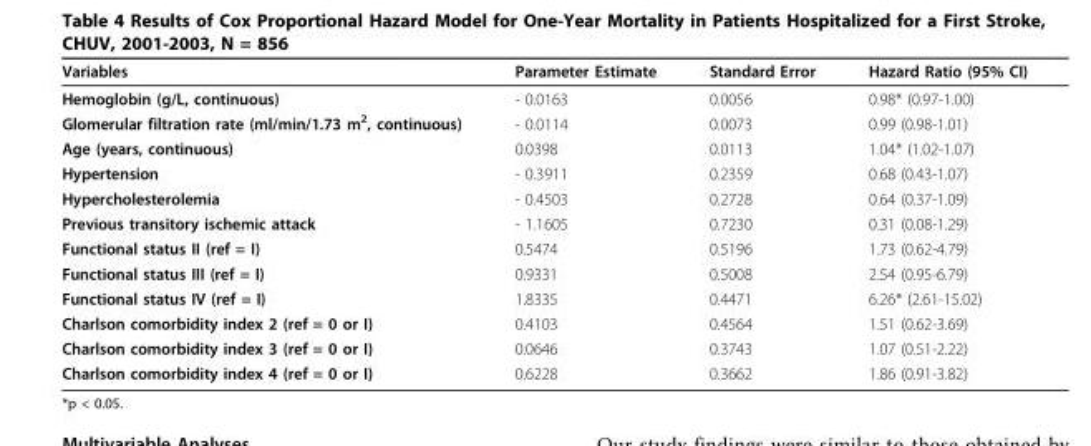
<table><thead><tr><td>Variables</td><td>Parameter Estimate</td><td>Standard Error</td><td>Hazard Ratio (95% CI)</td></tr></thead><tbody><tr><td>Hemoglobin (g/L, continuous)</td><td>- 0.0163</td><td>0.0056</td><td>0.98* (0.97-1.00)</td></tr><tr><td>Glomerular filtration rate (ml/min/1.73 m<sup>2</sup>, continuous)</td><td>- 0.0114</td><td>0.0073</td><td>0.99 (0.98-1.01)</td></tr><tr><td>Age (years, continuous)</td><td>0.0398</td><td>0.0113</td><td>1.04* (1.02-1.07)</td></tr><tr><td>Hypertension</td><td>- 0.3911</td><td>0.2359</td><td>0.68 (0.43-1.07)</td></tr><tr><td>Hypercholesterolemia</td><td>- 0.4503</td><td>0.2728</td><td>0.64 (0.37-1.09)</td></tr><tr><td>Previous transitory ischemic attack</td><td>- 1.1605</td><td>0.7230</td><td>0.31 (0.08-1.29)</td></tr><tr><td>Functional status II (ref = I)</td><td>0.5474</td><td>0.5196</td><td>1.73 (0.62-4.79)</td></tr><tr><td>Functional status III (ref = I)</td><td>0.9331</td><td>0.5008</td><td>2.54 (0.95-6.79)</td></tr><tr><td>Functional status IV (ref = I)</td><td>1.8335</td><td>0.4471</td><td>6.26* (2.61-15.02)</td></tr><tr><td>Charlson comorbidity index 2 (ref = 0 or I)</td><td>0.4103</td><td>0.4564</td><td>1.51 (0.62-3.69)</td></tr><tr><td>Charlson comorbidity index 3 (ref = 0 or I)</td><td>0.0646</td><td>0.3743</td><td>1.07 (0.51-2.22)</td></tr><tr><td>Charlson comorbidity index 4 (ref = 0 or I)</td><td>0.6228</td><td>0.3662</td><td>1.86 (0.91-3.82)</td></tr></tbody></table>